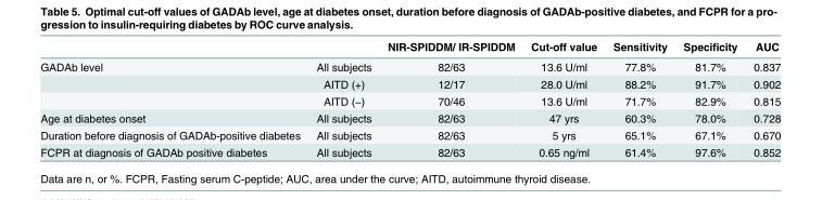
<table><thead><tr><td></td><td></td><td>NIR-SPIDDM/ IR-SPIDDM</td><td>Cut-off value</td><td>Sensitivity</td><td>Specificity</td><td>AUC</td></tr></thead><tbody><tr><td rowspan="3">GADAb level</td><td>All subjects</td><td>82/63</td><td>13.6 U/ml</td><td>77.8%</td><td>81.7%</td><td>0.837</td></tr><tr><td>AITD (+)</td><td>12/17</td><td>28.0 U/ml</td><td>88.2%</td><td>91.7%</td><td>0.902</td></tr><tr><td>AITD (−)</td><td>70/46</td><td>13.6 U/ml</td><td>71.7%</td><td>82.9%</td><td>0.815</td></tr><tr><td>Age at diabetes onset</td><td>All subjects</td><td>82/63</td><td>47 yrs</td><td>60.3%</td><td>78.0%</td><td>0.728</td></tr><tr><td>Duration before diagnosis of GADAb-positive diabetes</td><td>All subjects</td><td>82/63</td><td>5 yrs</td><td>65.1%</td><td>67.1%</td><td>0.670</td></tr><tr><td>FCPR at diagnosis of GADAb positive diabetes</td><td>All subjects</td><td>82/63</td><td>0.65 ng/ml</td><td>61.4%</td><td>97.6%</td><td>0.852</td></tr></tbody></table>